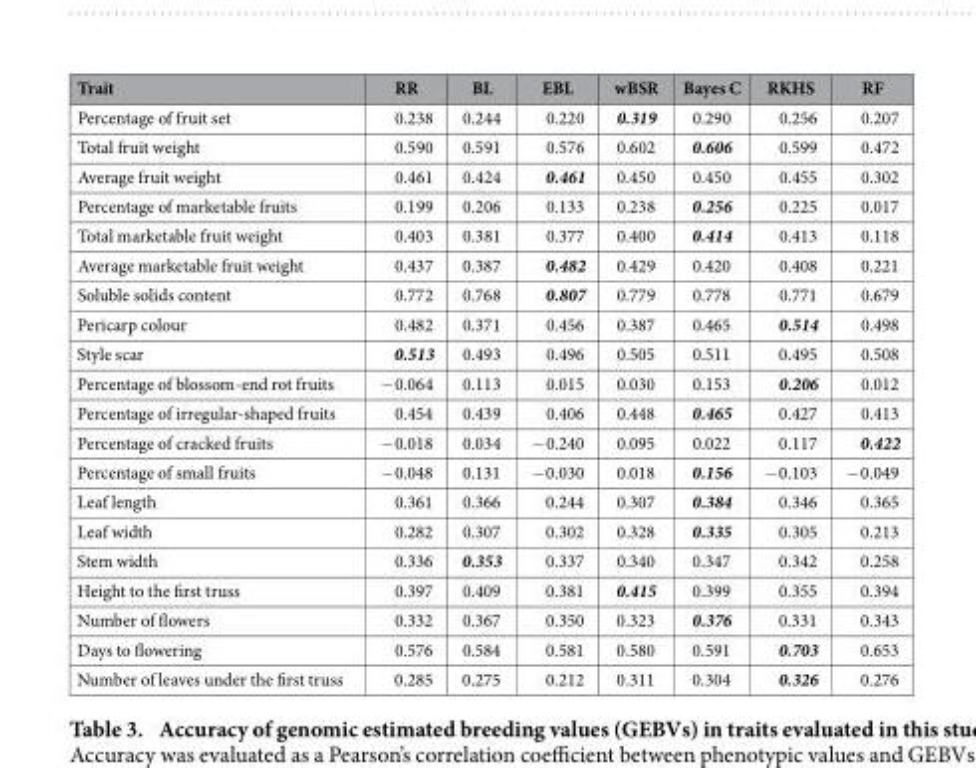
<table><thead><tr><td>Trait</td><td>RR</td><td>BL</td><td>EBL</td><td>wBSR</td><td>Bayes C</td><td>RKHS</td><td>RF</td></tr></thead><tbody><tr><td>Percentage of fruit set</td><td>0.238</td><td>0.244</td><td>0.220</td><td>0.319</td><td>0.290</td><td>0.256</td><td>0.207</td></tr><tr><td>Total fruit weight</td><td>0.590</td><td>0.591</td><td>0.576</td><td>0.602</td><td>0.606</td><td>0.599</td><td>0.472</td></tr><tr><td>Average fruit weight</td><td>0.461</td><td>0.424</td><td>0.461</td><td>0.450</td><td>0.450</td><td>0.455</td><td>0.302</td></tr><tr><td>Percentage of marketable fruits</td><td>0.199</td><td>0.206</td><td>0.133</td><td>0.238</td><td>0.256</td><td>0.225</td><td>0.017</td></tr><tr><td>Total marketable fruit weight</td><td>0.403</td><td>0.381</td><td>0.377</td><td>0.400</td><td>0.414</td><td>0.413</td><td>0.118</td></tr><tr><td>Average marketable fruit weight</td><td>0.437</td><td>0.387</td><td>0.482</td><td>0.429</td><td>0.420</td><td>0.408</td><td>0.221</td></tr><tr><td>Soluble solids content</td><td>0.772</td><td>0.768</td><td>0.807</td><td>0.779</td><td>0.778</td><td>0.771</td><td>0.679</td></tr><tr><td>Pericarp colour</td><td>0.482</td><td>0.371</td><td>0.456</td><td>0.387</td><td>0.465</td><td>0.514</td><td>0.498</td></tr><tr><td>Style scar</td><td>0.513</td><td>0.493</td><td>0.496</td><td>0.505</td><td>0.511</td><td>0.495</td><td>0.508</td></tr><tr><td>Percentage of blossom-end rot fruits</td><td>− 0.064</td><td>0.113</td><td>0.015</td><td>0.030</td><td>0.153</td><td>0.206</td><td>0.012</td></tr><tr><td>Percentage of irregular-shaped fruits</td><td>0.454</td><td>0.439</td><td>0.406</td><td>0.448</td><td>0.465</td><td>0.427</td><td>0.413</td></tr><tr><td>Percentage of cracked fruits</td><td>− 0.018</td><td>0.034</td><td>− 0.240</td><td>0.095</td><td>0.022</td><td>0.117</td><td>0.422</td></tr><tr><td>Percentage of small fruits</td><td>− 0.048</td><td>0.131</td><td>− 0.030</td><td>0.018</td><td>0.156</td><td>− 0.103</td><td>− 0.049</td></tr><tr><td>Leaf length</td><td>0.361</td><td>0.366</td><td>0.244</td><td>0.307</td><td>0.384</td><td>0.346</td><td>0.365</td></tr><tr><td>Leaf width</td><td>0.282</td><td>0.307</td><td>0.302</td><td>0.328</td><td>0.335</td><td>0.305</td><td>0.213</td></tr><tr><td>Stem width</td><td>0.336</td><td>0.353</td><td>0.337</td><td>0.340</td><td>0.347</td><td>0.342</td><td>0.258</td></tr><tr><td>Height to the first truss</td><td>0.397</td><td>0.409</td><td>0.381</td><td>0.415</td><td>0.399</td><td>0.355</td><td>0.394</td></tr><tr><td>Number of flowers</td><td>0.332</td><td>0.367</td><td>0.350</td><td>0.323</td><td>0.376</td><td>0.331</td><td>0.343</td></tr><tr><td>Days to flowering</td><td>0.576</td><td>0.584</td><td>0.581</td><td>0.580</td><td>0.591</td><td>0.703</td><td>0.653</td></tr><tr><td>Number of leaves under the first truss</td><td>0.285</td><td>0.275</td><td>0.212</td><td>0.311</td><td>0.304</td><td>0.326</td><td>0.276</td></tr></tbody></table>